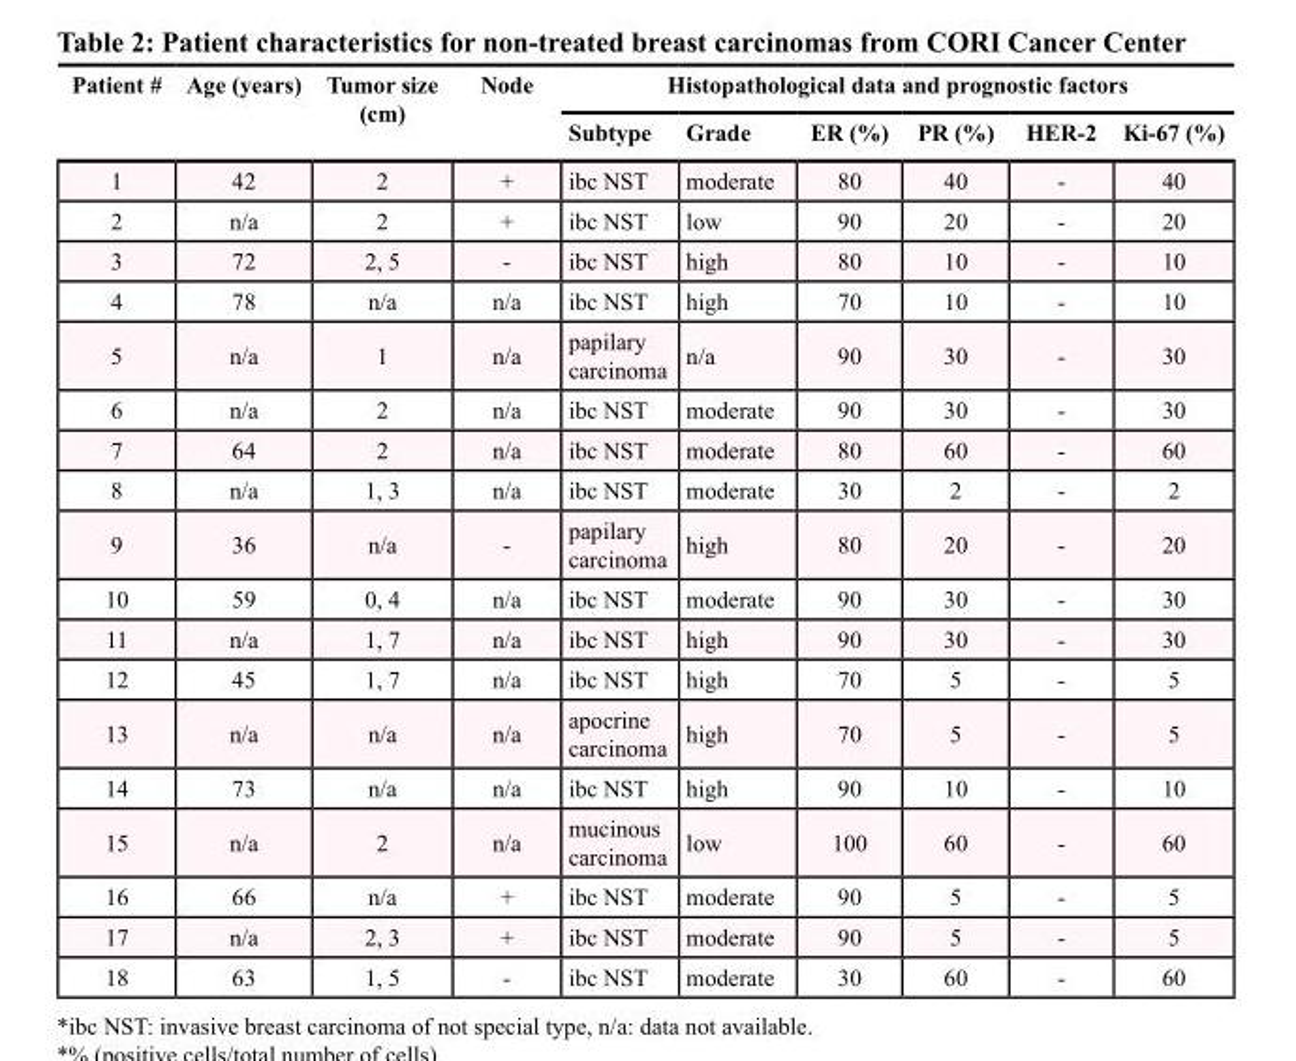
<table><thead><tr><td rowspan="2">Patient #</td><td rowspan="2">Age (years)</td><td rowspan="2">Tumor size (cm)</td><td rowspan="2">Node</td><td colspan="6">Histopathological data and prognostic factors</td></tr><tr><td>Subtype</td><td>Grade</td><td>ER (%)</td><td>PR (%)</td><td>HER-2</td><td>Ki-67 (%)</td></tr></thead><tbody><tr><td>1</td><td>42</td><td>2</td><td>+</td><td>ibc NST</td><td>moderate</td><td>80</td><td>40</td><td>-</td><td>40</td></tr><tr><td>2</td><td>n/a</td><td>2</td><td>+</td><td>ibc NST</td><td>low</td><td>90</td><td>20</td><td>-</td><td>20</td></tr><tr><td>3</td><td>72</td><td>2, 5</td><td>-</td><td>ibc NST</td><td>high</td><td>80</td><td>10</td><td>-</td><td>10</td></tr><tr><td>4</td><td>78</td><td>n/a</td><td>n/a</td><td>ibc NST</td><td>high</td><td>70</td><td>10</td><td>-</td><td>10</td></tr><tr><td>5</td><td>n/a</td><td>1</td><td>n/a</td><td>papilary carcinoma</td><td>n/a</td><td>90</td><td>30</td><td>-</td><td>30</td></tr><tr><td>6</td><td>n/a</td><td>2</td><td>n/a</td><td>ibc NST</td><td>moderate</td><td>90</td><td>30</td><td>-</td><td>30</td></tr><tr><td>7</td><td>64</td><td>2</td><td>n/a</td><td>ibc NST</td><td>moderate</td><td>80</td><td>60</td><td>-</td><td>60</td></tr><tr><td>8</td><td>n/a</td><td>1, 3</td><td>n/a</td><td>ibc NST</td><td>moderate</td><td>30</td><td>2</td><td>-</td><td>2</td></tr><tr><td>9</td><td>36</td><td>n/a</td><td>-</td><td>papilary carcinoma</td><td>high</td><td>80</td><td>20</td><td>-</td><td>20</td></tr><tr><td>10</td><td>59</td><td>0, 4</td><td>n/a</td><td>ibc NST</td><td>moderate</td><td>90</td><td>30</td><td>-</td><td>30</td></tr><tr><td>11</td><td>n/a</td><td>1, 7</td><td>n/a</td><td>ibc NST</td><td>high</td><td>90</td><td>30</td><td>-</td><td>30</td></tr><tr><td>12</td><td>45</td><td>1, 7</td><td>n/a</td><td>ibc NST</td><td>high</td><td>70</td><td>5</td><td>-</td><td>5</td></tr><tr><td>13</td><td>n/a</td><td>n/a</td><td>n/a</td><td>apocrine carcinoma</td><td>high</td><td>70</td><td>5</td><td>-</td><td>5</td></tr><tr><td>14</td><td>73</td><td>n/a</td><td>n/a</td><td>ibc NST</td><td>high</td><td>90</td><td>10</td><td>-</td><td>10</td></tr><tr><td>15</td><td>n/a</td><td>2</td><td>n/a</td><td>mucinous carcinoma</td><td>low</td><td>100</td><td>60</td><td>-</td><td>60</td></tr><tr><td>16</td><td>66</td><td>n/a</td><td>+</td><td>ibc NST</td><td>moderate</td><td>90</td><td>5</td><td>-</td><td>5</td></tr><tr><td>17</td><td>n/a</td><td>2, 3</td><td>+</td><td>ibc NST</td><td>moderate</td><td>90</td><td>5</td><td>-</td><td>5</td></tr><tr><td>18</td><td>63</td><td>1, 5</td><td>-</td><td>ibc NST</td><td>moderate</td><td>30</td><td>60</td><td>-</td><td>60</td></tr></tbody></table>